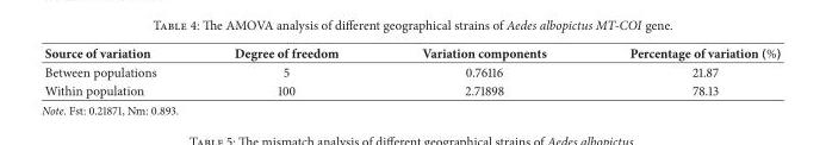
<table><thead><tr><td>Source of variation</td><td>Degree of freedom</td><td>Variation components</td><td>Percentage of variation (%)</td></tr></thead><tbody><tr><td>Between populations</td><td>5</td><td>0.76116</td><td>21.87</td></tr><tr><td>Within population</td><td>100</td><td>2.71898</td><td>78.13</td></tr></tbody></table>